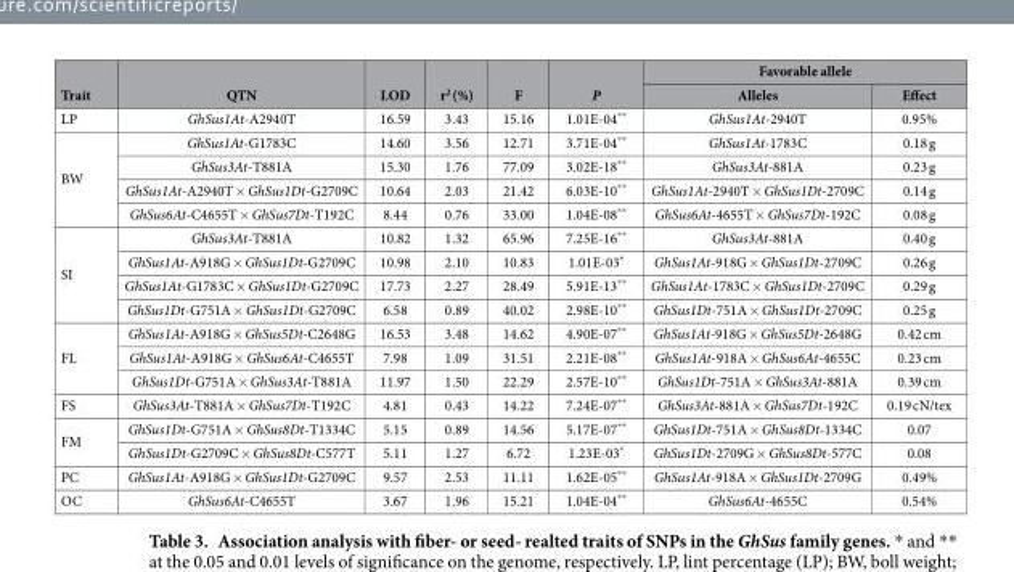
<table><thead><tr><td rowspan="2">Trait</td><td rowspan="2">QTN</td><td rowspan="2">LOD</td><td rowspan="2">r<sup>2</sup> (%)</td><td rowspan="2">F</td><td rowspan="2">P</td><td colspan="2">Favorable allele</td></tr><tr><td>Alleles</td><td>Effect</td></tr></thead><tbody><tr><td>LP</td><td>GhSus1At-A2940T</td><td>16.59</td><td>3.43</td><td>15.16</td><td>1.01E-04**</td><td>GhSus1At-2940T</td><td>0.95%</td></tr><tr><td rowspan="4">BW</td><td>GhSus1At-G1783C</td><td>14.60</td><td>3.56</td><td>12.71</td><td>3.71E-04**</td><td>GhSus1At-1783C</td><td>0.18 g</td></tr><tr><td>GhSus3At-T881A</td><td>15.30</td><td>1.76</td><td>77.09</td><td>3.02E-18**</td><td>GhSus3At-881A</td><td>0.23 g</td></tr><tr><td>GhSus1At-A2940T × GhSus1Dt-G2709C</td><td>10.64</td><td>2.03</td><td>21.42</td><td>6.03E-10**</td><td>GhSus1At-2940T × GhSus1Dt-2709C</td><td>0.14 g</td></tr><tr><td>GhSus6At-C4655T × GhSus7Dt-T192C</td><td>8.44</td><td>0.76</td><td>33.00</td><td>1.04E-08**</td><td>GhSus6At-4655T × GhSus7Dt-192C</td><td>0.08 g</td></tr><tr><td rowspan="4">SI</td><td>GhSus3At-T881A</td><td>10.82</td><td>1.32</td><td>65.96</td><td>7.25E-16**</td><td>GhSus3At-881A</td><td>0.40 g</td></tr><tr><td>GhSus1At-A918G × GhSus1Dt-G2709C</td><td>10.98</td><td>2.10</td><td>10.83</td><td>1.01E-03*</td><td>GhSus1At-918G × GhSus1Dt-2709C</td><td>0.26 g</td></tr><tr><td>GhSus1At-G1783C × GhSus1Dt-G2709C</td><td>17.73</td><td>2.27</td><td>28.49</td><td>5.91E-13**</td><td>GhSus1At-1783C × GhSus1Dt-2709C</td><td>0.29 g</td></tr><tr><td>GhSus1Dt-G751A × GhSus1Dt-G2709C</td><td>6.58</td><td>0.89</td><td>40.02</td><td>2.98E-10**</td><td>GhSus1Dt-751A × GhSus1Dt-2709C</td><td>0.25 g</td></tr><tr><td rowspan="3">FL</td><td>GhSus1At-A918G × GhSus5Dt-C2648G</td><td>16.53</td><td>3.48</td><td>14.62</td><td>4.90E-07**</td><td>GhSus1At-918G × GhSus5Dt-2648G</td><td>0.42 cm</td></tr><tr><td>GhSus1At-A918G × GhSus6At-C4655T</td><td>7.98</td><td>1.09</td><td>31.51</td><td>2.21E-08**</td><td>GhSus1At-918A × GhSus6At-4655C</td><td>0.23 cm</td></tr><tr><td>GhSus1Dt-G751A × GhSus3At-T881A</td><td>11.97</td><td>1.50</td><td>22.29</td><td>2.57E-10**</td><td>GhSus1Dt-751A × GhSus3At-881A</td><td>0.39 cm</td></tr><tr><td>FS</td><td>GhSus3At-T881A × GhSus7Dt-T192C</td><td>4.81</td><td>0.43</td><td>14.22</td><td>7.24E-07**</td><td>GhSus3At-881A × GhSus7Dt-192C</td><td>0.19 cN/tex</td></tr><tr><td rowspan="2">FM</td><td>GhSus1Dt-G751A × GhSus8Dt-T1334C</td><td>5.15</td><td>0.89</td><td>14.56</td><td>5.17E-07**</td><td>GhSus1Dt-751A × GhSus8Dt-1334C</td><td>0.07</td></tr><tr><td>GhSus1Dt-G2709C × GhSus8Dt-C577T</td><td>5.11</td><td>1.27</td><td>6.72</td><td>1.23E-03*</td><td>GhSus1Dt-2709G × GhSus8Dt-577C</td><td>0.08</td></tr><tr><td>PC</td><td>GhSus1At-A918G × GhSus1Dt-G2709C</td><td>9.57</td><td>2.53</td><td>11.11</td><td>1.62E-05**</td><td>GhSus1At-918A × GhSus1Dt-2709G</td><td>0.49%</td></tr><tr><td>OC</td><td>GhSus6At-C4655T</td><td>3.67</td><td>1.96</td><td>15.21</td><td>1.04E-04**</td><td>GhSus6At-4655C</td><td>0.54%</td></tr></tbody></table>